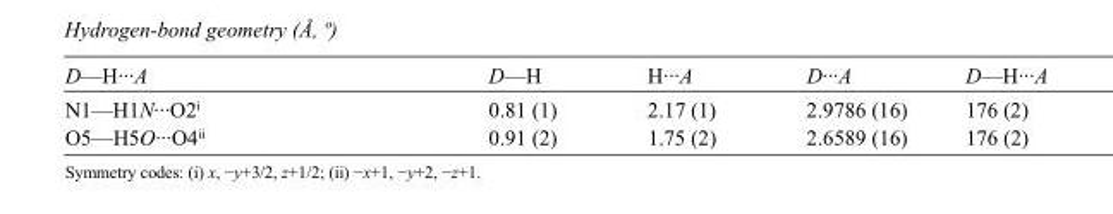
<table><tbody><tr><td>D—H···A</td><td>D—H</td><td>H···A</td><td>D···A</td><td>D—H···A</td></tr><tr><td>N1—H1N···O2<sup>i</sup></td><td>0.81 (1)</td><td>2.17 (1)</td><td>2.9786 (16)</td><td>176 (2)</td></tr><tr><td>O5—H5O···O4<sup>ii</sup></td><td>0.91 (2)</td><td>1.75 (2)</td><td>2.6589 (16)</td><td>176 (2)</td></tr></tbody></table>